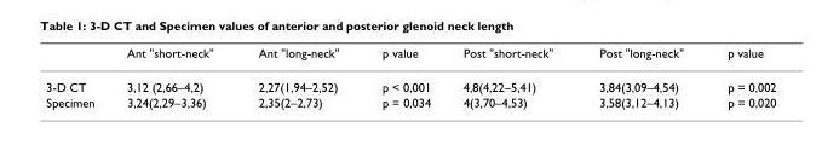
<table><thead><tr><td></td><td>Ant &quot;short-neck&quot;</td><td>Ant &quot;long-neck&quot;</td><td>p value</td><td>Post &quot;short-neck&quot;</td><td>Post &quot;long-neck&quot;</td><td>p value</td></tr></thead><tbody><tr><td>3-D CT</td><td>3,12 (2,66–4,2)</td><td>2,27(1,94–2,52)</td><td>p &lt; 0,001</td><td>4,8(4,22–5,41)</td><td>3,84(3,09–4,54)</td><td>p = 0,002</td></tr><tr><td>Specimen</td><td>3,24(2,29–3,36)</td><td>2,35(2–2,73)</td><td>p = 0,034</td><td>4(3,70–4,53)</td><td>3,58(3,12–4,13)</td><td>p = 0,020</td></tr></tbody></table>